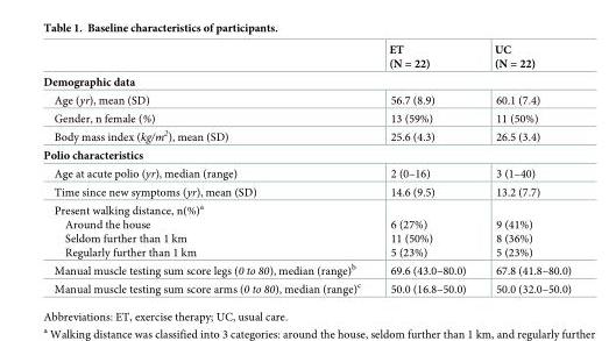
<table><thead><tr><td></td><td>ET (N = 22)</td><td>UC (N = 22)</td></tr></thead><tbody><tr><td colspan="3">Demographic data</td></tr><tr><td>Age (yr), mean (SD)</td><td>56.7 (8.9)</td><td>60.1 (7.4)</td></tr><tr><td>Gender, n female (%)</td><td>13 (59%)</td><td>11 (50%)</td></tr><tr><td>Body mass index (kg/m<sup>2</sup>), mean (SD)</td><td>25.6 (4.3)</td><td>26.5 (3.4)</td></tr><tr><td colspan="3">Polio characteristics</td></tr><tr><td>Age at acute polio (yr), median (range)</td><td>2 (0–16)</td><td>3 (1–40)</td></tr><tr><td>Time since new symptoms (yr), mean (SD)</td><td>14.6 (9.5)</td><td>13.2 (7.7)</td></tr><tr><td>Present walking distance, n(%)<sup>a</sup> Around the house Seldom further than 1 km Regularly further than 1 km</td><td>6 (27%) 11 (50%) 5 (23%)</td><td>9 (41%) 8 (36%) 5 (23%)</td></tr><tr><td>Manual muscle testing sum score legs (0 to 80), median (range)<sup>b</sup></td><td>69.6 (43.0–80.0)</td><td>67.8 (41.8–80.0)</td></tr><tr><td>Manual muscle testing sum score arms (0 to 80), median (range)<sup>c</sup></td><td>50.0 (16.8–50.0)</td><td>50.0 (32.0–50.0)</td></tr></tbody></table>